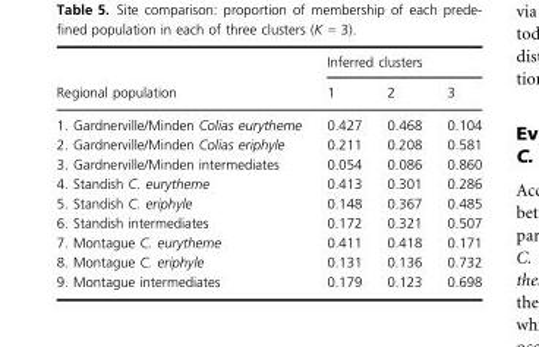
<table><thead><tr><td rowspan="2">Regional population</td><td colspan="3">Inferred clusters</td></tr><tr><td>1</td><td>2</td><td>3</td></tr></thead><tbody><tr><td>1. Gardnerville/Minden Colias eurytheme</td><td>0.427</td><td>0.468</td><td>0.104</td></tr><tr><td>2. Gardnerville/Minden Colias eriphyle</td><td>0.211</td><td>0.208</td><td>0.581</td></tr><tr><td>3. Gardnerville/Minden intermediates</td><td>0.054</td><td>0.086</td><td>0.860</td></tr><tr><td>4. Standish C. eurytheme</td><td>0.413</td><td>0.301</td><td>0.286</td></tr><tr><td>5. Standish C. eriphyle</td><td>0.148</td><td>0.367</td><td>0.485</td></tr><tr><td>6. Standish intermediates</td><td>0.172</td><td>0.321</td><td>0.507</td></tr><tr><td>7. Montague C. eurytheme</td><td>0.411</td><td>0.418</td><td>0.171</td></tr><tr><td>8. Montague C. eriphyle</td><td>0.131</td><td>0.136</td><td>0.732</td></tr><tr><td>9. Montague intermediates</td><td>0.179</td><td>0.123</td><td>0.698</td></tr></tbody></table>